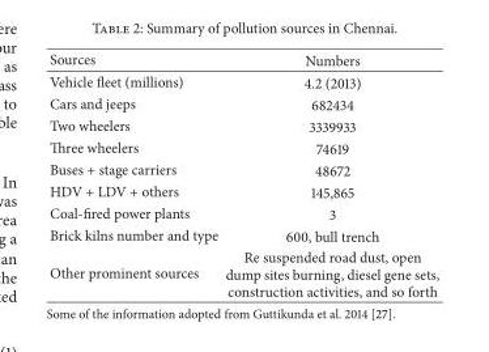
<table><thead><tr><td>Sources</td><td>Numbers</td></tr></thead><tbody><tr><td>Vehicle fleet (millions)</td><td>4.2 (2013)</td></tr><tr><td>Cars and jeeps</td><td>682434</td></tr><tr><td>Two wheelers</td><td>3339933</td></tr><tr><td>Three wheelers</td><td>74619</td></tr><tr><td>Buses + stage carriers</td><td>48672</td></tr><tr><td>HDV + LDV + others</td><td>145,865</td></tr><tr><td>Coal-fired power plants</td><td>3</td></tr><tr><td>Brick kilns number and type</td><td>600, bull trench</td></tr><tr><td>Other prominent sources</td><td>Re suspended road dust, open dump sites burning, diesel gene sets, construction activities, and so forth</td></tr></tbody></table>